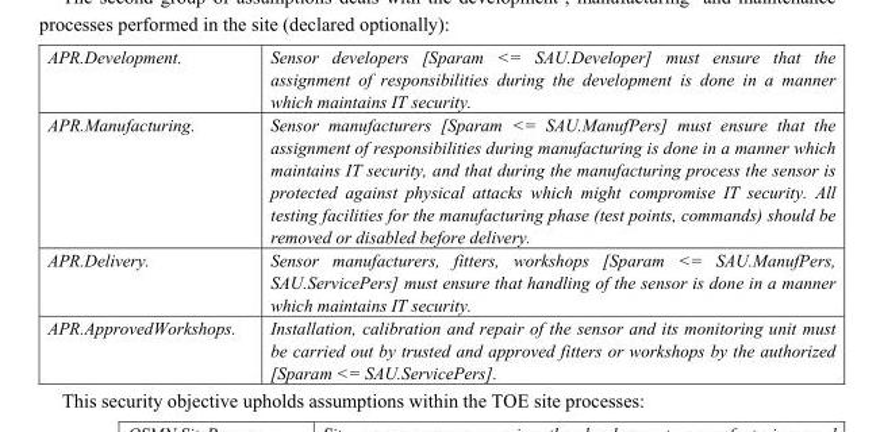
<table><tbody><tr><td>APR.Development.</td><td>Sensor developers [Sparam &lt;= SAU.Developer] must ensure that the assignment of responsibilities during the development is done in a manner which maintains IT security.</td></tr><tr><td>APR.Manufacturing.</td><td>Sensor manufacturers [Sparam &lt;= SAU.ManufPers] must ensure that the assignment of responsibilities during manufacturing is done in a manner which maintains IT security, and that during the manufacturing process the sensor is protected against physical attacks which might compromise IT security. All testing facilities for the manufacturing phase (test points, commands) should be removed or disabled before delivery.</td></tr><tr><td>APR.Delivery.</td><td>Sensor manufacturers, fitters, workshops [Sparam &lt;= SAU.ManufPers, SAU.ServicePers] must ensure that handling of the sensor is done in a manner which maintains IT security.</td></tr><tr><td>APR.ApprovedWorkshops.</td><td>Installation, calibration and repair of the sensor and its monitoring unit must be carried out by trusted and approved fitters or workshops by the authorized [Sparam &lt;= SAU.ServicePers].</td></tr></tbody></table>